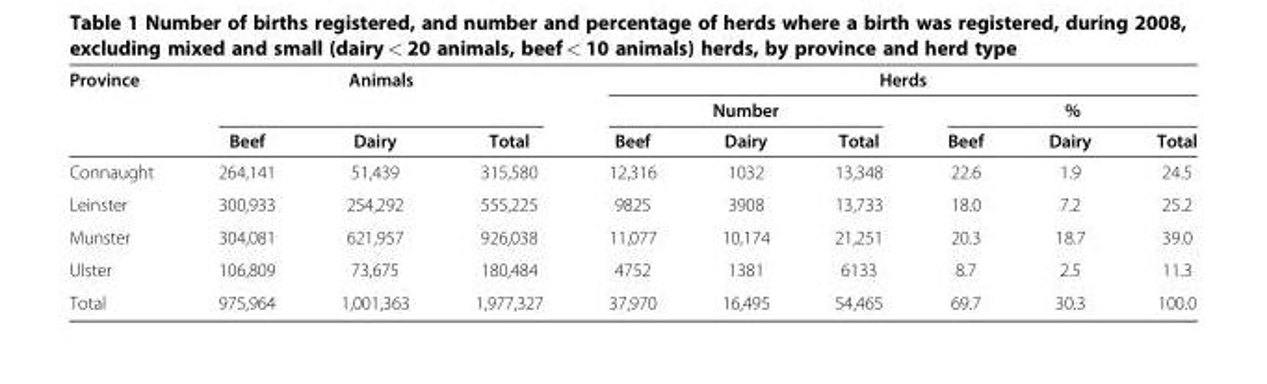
<table><thead><tr><td rowspan="3">Province</td><td colspan="3">Animals</td><td colspan="6">Herds</td></tr><tr><td rowspan="2">Beef</td><td rowspan="2">Dairy</td><td rowspan="2">Total</td><td colspan="3">Number</td><td colspan="3">%</td></tr><tr><td>Beef</td><td>Dairy</td><td>Total</td><td>Beef</td><td>Dairy</td><td>Total</td></tr></thead><tbody><tr><td>Connaught</td><td>264,141</td><td>51,439</td><td>315,580</td><td>12,316</td><td>1032</td><td>13,348</td><td>22.6</td><td>1.9</td><td>24.5</td></tr><tr><td>Leinster</td><td>300,933</td><td>254,292</td><td>555,225</td><td>9825</td><td>3908</td><td>13,733</td><td>18.0</td><td>7.2</td><td>25.2</td></tr><tr><td>Munster</td><td>304,081</td><td>621,957</td><td>926,038</td><td>11,077</td><td>10,174</td><td>21,251</td><td>20.3</td><td>18.7</td><td>39.0</td></tr><tr><td>Ulster</td><td>106,809</td><td>73,675</td><td>180,484</td><td>4752</td><td>1381</td><td>6133</td><td>8.7</td><td>2.5</td><td>11.3</td></tr><tr><td>Total</td><td>975,964</td><td>1,001,363</td><td>1,977,327</td><td>37,970</td><td>16,495</td><td>54,465</td><td>69.7</td><td>30.3</td><td>100.0</td></tr></tbody></table>